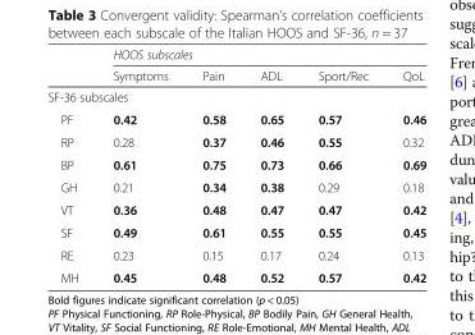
<table><thead><tr><td rowspan="2"></td><td colspan="5">HOOS subscales</td></tr><tr><td>Symptoms</td><td>Pain</td><td>ADL</td><td>Sport/Rec</td><td>QoL</td></tr></thead><tbody><tr><td colspan="6">SF-36 subscales</td></tr><tr><td>PF</td><td>0.42</td><td>0.58</td><td>0.65</td><td>0.57</td><td>0.46</td></tr><tr><td>RP</td><td>0.28</td><td>0.37</td><td>0.46</td><td>0.55</td><td>0.32</td></tr><tr><td>BP</td><td>0.61</td><td>0.75</td><td>0.73</td><td>0.66</td><td>0.69</td></tr><tr><td>GH</td><td>0.21</td><td>0.34</td><td>0.38</td><td>0.29</td><td>0.18</td></tr><tr><td>VT</td><td>0.36</td><td>0.48</td><td>0.47</td><td>0.47</td><td>0.42</td></tr><tr><td>SF</td><td>0.49</td><td>0.61</td><td>0.55</td><td>0.55</td><td>0.45</td></tr><tr><td>RE</td><td>0.23</td><td>0.15</td><td>0.17</td><td>0.24</td><td>0.13</td></tr><tr><td>MH</td><td>0.45</td><td>0.48</td><td>0.52</td><td>0.57</td><td>0.42</td></tr></tbody></table>